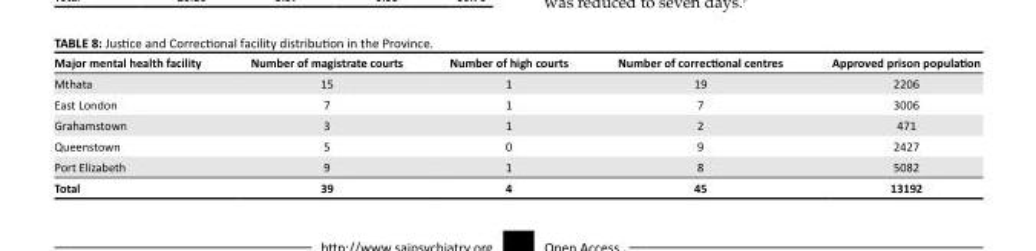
<table><thead><tr><td>Major mental health facility</td><td>Number of magistrate courts</td><td>Number of high courts</td><td>Number of correctional centres</td><td>Approved prison population</td></tr></thead><tbody><tr><td>Mthata</td><td>15</td><td>1</td><td>19</td><td>2206</td></tr><tr><td>East London</td><td>7</td><td>1</td><td>7</td><td>3006</td></tr><tr><td>Grahamstown</td><td>3</td><td>1</td><td>2</td><td>471</td></tr><tr><td>Queenstown</td><td>5</td><td>0</td><td>9</td><td>2427</td></tr><tr><td>Port Elizabeth</td><td>9</td><td>1</td><td>8</td><td>5082</td></tr><tr><td>Total</td><td>39</td><td>4</td><td>45</td><td>13192</td></tr></tbody></table>